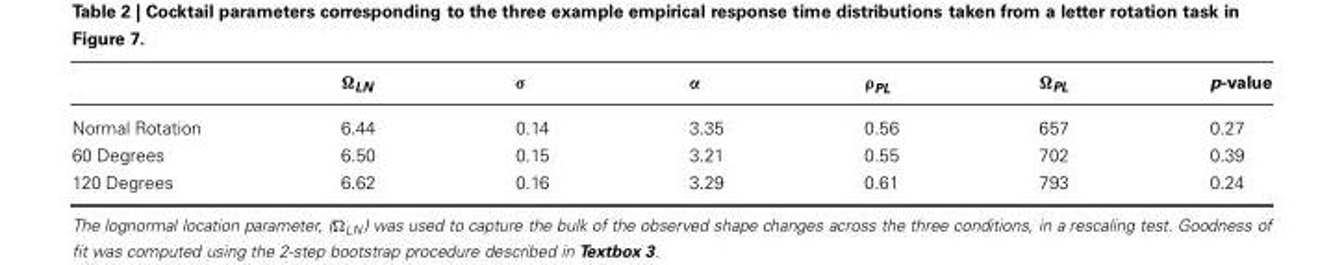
<table><thead><tr><td></td><td>Ω<sub>LN</sub></td><td>σ</td><td>α</td><td>ρ<sub>PL</sub></td><td>Ω<sub>PL</sub></td><td>p-value</td></tr></thead><tbody><tr><td>Normal Rotation</td><td>6.44</td><td>0.14</td><td>3.35</td><td>0.56</td><td>657</td><td>0.27</td></tr><tr><td>60 Degrees</td><td>6.50</td><td>0.15</td><td>3.21</td><td>0.55</td><td>702</td><td>0.39</td></tr><tr><td>120 Degrees</td><td>6.62</td><td>0.16</td><td>3.29</td><td>0.61</td><td>793</td><td>0.24</td></tr></tbody></table>